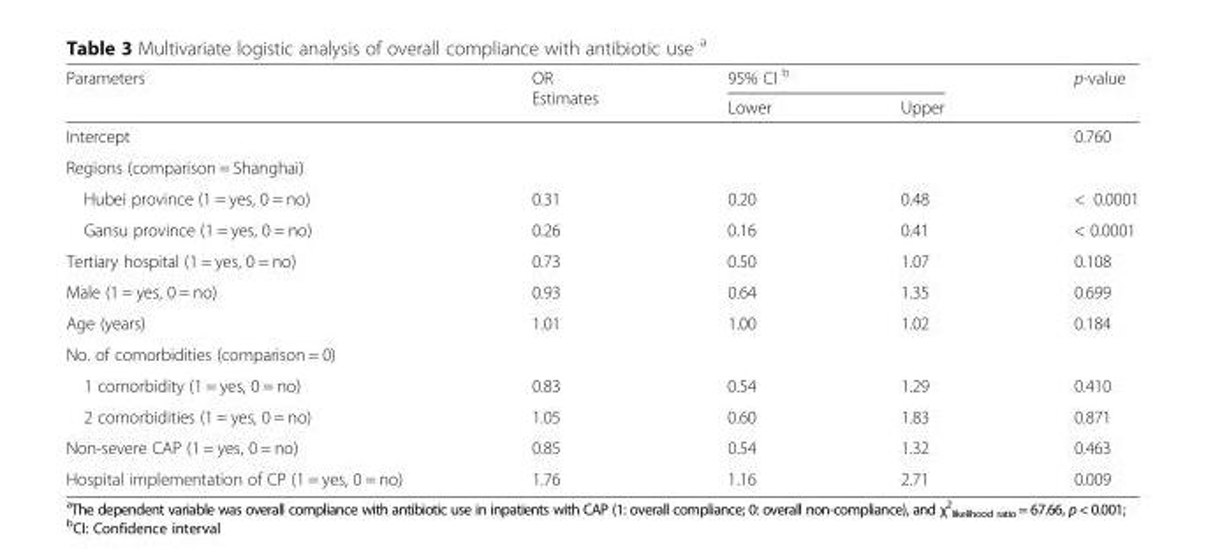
<table><thead><tr><td rowspan="2">Parameters</td><td rowspan="2">OR Estimates</td><td colspan="2">95% CI <sup>b</sup></td><td rowspan="2">p-value</td></tr><tr><td>Lower</td><td>Upper</td></tr></thead><tbody><tr><td>Intercept</td><td></td><td></td><td></td><td>0.760</td></tr><tr><td colspan="5">Regions (comparison = Shanghai)</td></tr><tr><td>Hubei province (1 = yes, 0 = no)</td><td>0.31</td><td>0.20</td><td>0.48</td><td>&lt; 0.0001</td></tr><tr><td>Gansu province (1 = yes, 0 = no)</td><td>0.26</td><td>0.16</td><td>0.41</td><td>&lt; 0.0001</td></tr><tr><td>Tertiary hospital (1 = yes, 0 = no)</td><td>0.73</td><td>0.50</td><td>1.07</td><td>0.108</td></tr><tr><td>Male (1 = yes, 0 = no)</td><td>0.93</td><td>0.64</td><td>1.35</td><td>0.699</td></tr><tr><td>Age (years)</td><td>1.01</td><td>1.00</td><td>1.02</td><td>0.184</td></tr><tr><td colspan="5">No. of comorbidities (comparison = 0)</td></tr><tr><td>1 comorbidity (1 = yes, 0 = no)</td><td>0.83</td><td>0.54</td><td>1.29</td><td>0.410</td></tr><tr><td>2 comorbidities (1 = yes, 0 = no)</td><td>1.05</td><td>0.60</td><td>1.83</td><td>0.871</td></tr><tr><td>Non-severe CAP (1 = yes, 0 = no)</td><td>0.85</td><td>0.54</td><td>1.32</td><td>0.463</td></tr><tr><td>Hospital implementation of CP (1 = yes, 0 = no)</td><td>1.76</td><td>1.16</td><td>2.71</td><td>0.009</td></tr></tbody></table>